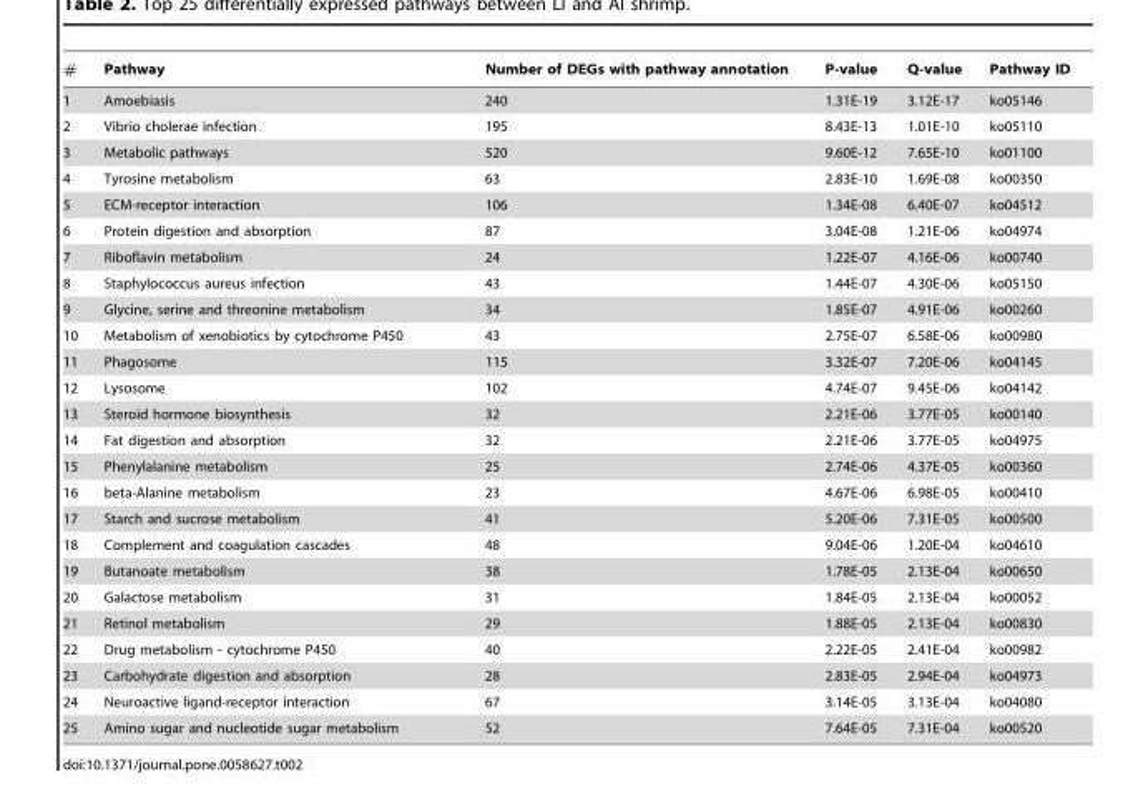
<table><thead><tr><td>#</td><td>Pathway</td><td>Number of DEGs with pathway annotation</td><td>P-value</td><td>Q-value</td><td>Pathway ID</td></tr></thead><tbody><tr><td>1</td><td>Amoebiasis</td><td>240</td><td>1.31E-19</td><td>3.12E-17</td><td>ko05146</td></tr><tr><td>2</td><td>Vibrio cholerae infection</td><td>195</td><td>8.43E-13</td><td>1.01E-10</td><td>ko05110</td></tr><tr><td>3</td><td>Metabolic pathways</td><td>520</td><td>9.60E-12</td><td>7.65E-10</td><td>ko01100</td></tr><tr><td>4</td><td>Tyrosine metabolism</td><td>63</td><td>2.83E-10</td><td>1.69E-08</td><td>ko00350</td></tr><tr><td>5</td><td>ECM-receptor interaction</td><td>106</td><td>1.34E-08</td><td>6.40E-07</td><td>ko04512</td></tr><tr><td>6</td><td>Protein digestion and absorption</td><td>87</td><td>3.04E-08</td><td>1.21E-06</td><td>ko04974</td></tr><tr><td>7</td><td>Riboflavin metabolism</td><td>24</td><td>1.22E-07</td><td>4.16E-06</td><td>ko00740</td></tr><tr><td>8</td><td>Staphylococcus aureus infection</td><td>43</td><td>1.44E-07</td><td>4.30E-06</td><td>ko05150</td></tr><tr><td>9</td><td>Glycine, serine and threonine metabolism</td><td>34</td><td>1.85E-07</td><td>4.91E-06</td><td>ko00260</td></tr><tr><td>10</td><td>Metabolism of xenobiotics by cytochrome P450</td><td>43</td><td>2.75E-07</td><td>6.58E-06</td><td>ko00980</td></tr><tr><td>11</td><td>Phagosome</td><td>115</td><td>3.32E-07</td><td>7.20E-06</td><td>ko04145</td></tr><tr><td>12</td><td>Lysosome</td><td>102</td><td>4.74E-07</td><td>9.45E-06</td><td>ko04142</td></tr><tr><td>13</td><td>Steroid hormone biosynthesis</td><td>32</td><td>2.21E-06</td><td>3.77E-05</td><td>ko00140</td></tr><tr><td>14</td><td>Fat digestion and absorption</td><td>32</td><td>2.21E-06</td><td>3.77E-05</td><td>ko04975</td></tr><tr><td>15</td><td>Phenylalanine metabolism</td><td>25</td><td>2.74E-06</td><td>4.37E-05</td><td>ko00360</td></tr><tr><td>16</td><td>beta-Alanine metabolism</td><td>23</td><td>4.67E-06</td><td>6.98E-05</td><td>ko00410</td></tr><tr><td>17</td><td>Starch and sucrose metabolism</td><td>41</td><td>5.20E-06</td><td>7.31E-05</td><td>ko00500</td></tr><tr><td>18</td><td>Complement and coagulation cascades</td><td>48</td><td>9.04E-06</td><td>1.20E-04</td><td>ko04610</td></tr><tr><td>19</td><td>Butanoate metabolism</td><td>38</td><td>1.78E-05</td><td>2.13E-04</td><td>ko00650</td></tr><tr><td>20</td><td>Galactose metabolism</td><td>31</td><td>1.84E-05</td><td>2.13E-04</td><td>ko00052</td></tr><tr><td>21</td><td>Retinol metabolism</td><td>29</td><td>1.88E-05</td><td>2.13E-04</td><td>ko00830</td></tr><tr><td>22</td><td>Drug metabolism - cytochrome P450</td><td>40</td><td>2.22E-05</td><td>2.41E-04</td><td>ko00982</td></tr><tr><td>23</td><td>Carbohydrate digestion and absorption</td><td>28</td><td>2.83E-05</td><td>2.94E-04</td><td>ko04973</td></tr><tr><td>24</td><td>Neuroactive ligand-receptor interaction</td><td>67</td><td>3.14E-05</td><td>3.13E-04</td><td>ko04080</td></tr><tr><td>25</td><td>Amino sugar and nucleotide sugar metabolism</td><td>52</td><td>7.64E-05</td><td>7.31E-04</td><td>ko00520</td></tr></tbody></table>